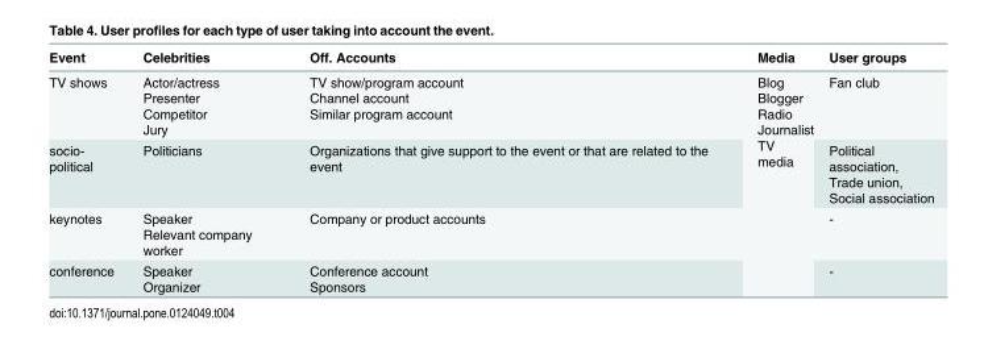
<table><thead><tr><td>Event</td><td>Celebrities</td><td>Off. Accounts</td><td>Media</td><td>User groups</td></tr></thead><tbody><tr><td>TV shows</td><td>Actor/actress Presenter Competitor Jury</td><td>TV show/program account Channel account Similar program account</td><td rowspan="4">Blog Blogger Radio Journalist TV media</td><td>Fan club</td></tr><tr><td>socio- political</td><td>Politicians</td><td>Organizations that give support to the event or that are related to the event</td><td>Political association, Trade union, Social association</td></tr><tr><td>keynotes</td><td>Speaker Relevant company worker</td><td>Company or product accounts</td><td>-</td></tr><tr><td>conference</td><td>Speaker Organizer</td><td>Conference account Sponsors</td><td>-</td></tr></tbody></table>